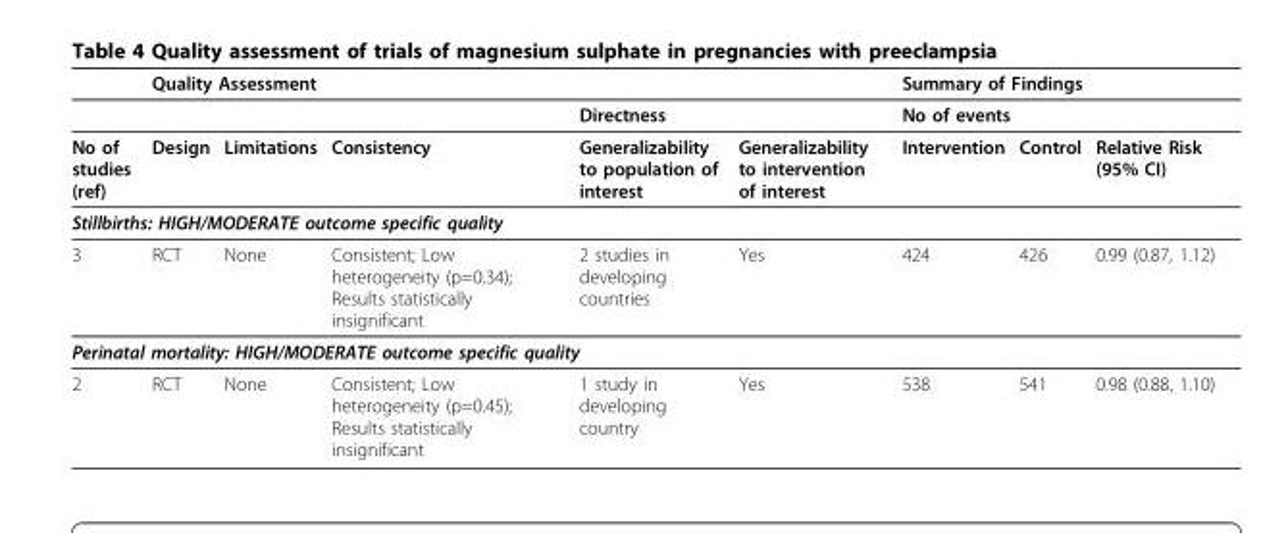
<table><thead><tr><td rowspan="3">No of studies (ref)</td><td colspan="5">Quality Assessment</td><td colspan="3">Summary of Findings</td></tr><tr><td rowspan="2">Design</td><td rowspan="2">Limitations</td><td rowspan="2">Consistency</td><td colspan="2">Directness</td><td colspan="2">No of events</td><td rowspan="2">Relative Risk (95% CI)</td></tr><tr><td>Generalizability to population of interest</td><td>Generalizability to intervention of interest</td><td>Intervention</td><td>Control</td></tr></thead><tbody><tr><td colspan="9">Stillbirths: HIGH/MODERATE outcome specific quality</td></tr><tr><td>3</td><td>RCT</td><td>None</td><td>Consistent; Low heterogeneity (p=0.34); Results statistically insignificant</td><td>2 studies in developing countries</td><td>Yes</td><td>424</td><td>426</td><td>0.99 (0.87, 1.12)</td></tr><tr><td colspan="9">Perinatal mortality: HIGH/MODERATE outcome specific quality</td></tr><tr><td>2</td><td>RCT</td><td>None</td><td>Consistent; Low heterogeneity (p=0.45); Results statistically insignificant</td><td>1 study in developing country</td><td>Yes</td><td>538</td><td>541</td><td>0.98 (0.88, 1.10)</td></tr></tbody></table>